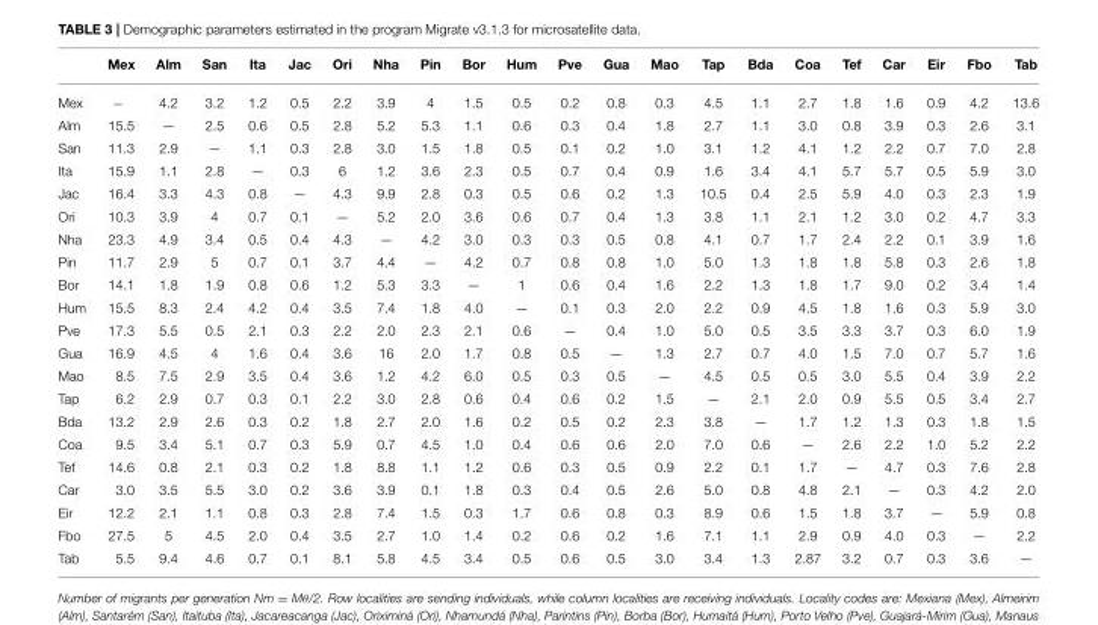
<table><thead><tr><td></td><td>Mex</td><td>Alm</td><td>San</td><td>Ita</td><td>Jac</td><td>Ori</td><td>Nha</td><td>Pin</td><td>Bor</td><td>Hum</td><td>Pve</td><td>Gua</td><td>Mao</td><td>Tap</td><td>Bda</td><td>Coa</td><td>Tef</td><td>Car</td><td>Eir</td><td>Fbo</td><td>Tab</td></tr></thead><tbody><tr><td>Mex</td><td>−</td><td>4.2</td><td>3.2</td><td>1.2</td><td>0.5</td><td>2.2</td><td>3.9</td><td>4</td><td>1.5</td><td>0.5</td><td>0.2</td><td>0.8</td><td>0.3</td><td>4.5</td><td>1.1</td><td>2.7</td><td>1.8</td><td>1.6</td><td>0.9</td><td>4.2</td><td>13.6</td></tr><tr><td>Alm</td><td>15.5</td><td>—</td><td>2.5</td><td>0.6</td><td>0.5</td><td>2.8</td><td>5.2</td><td>5.3</td><td>1.1</td><td>0.6</td><td>0.3</td><td>0.4</td><td>1.8</td><td>2.7</td><td>1.1</td><td>3.0</td><td>0.8</td><td>3.9</td><td>0.3</td><td>2.6</td><td>3.1</td></tr><tr><td>San</td><td>11.3</td><td>2.9</td><td>—</td><td>1.1</td><td>0.3</td><td>2.8</td><td>3.0</td><td>1.5</td><td>1.8</td><td>0.5</td><td>0.1</td><td>0.2</td><td>1.0</td><td>3.1</td><td>1.2</td><td>4.1</td><td>1.2</td><td>2.2</td><td>0.7</td><td>7.0</td><td>2.8</td></tr><tr><td>Ita</td><td>15.9</td><td>1.1</td><td>2.8</td><td>—</td><td>0.3</td><td>6</td><td>1.2</td><td>3.6</td><td>2.3</td><td>0.5</td><td>0.7</td><td>0.4</td><td>0.9</td><td>1.6</td><td>3.4</td><td>4.1</td><td>5.7</td><td>5.7</td><td>0.5</td><td>5.9</td><td>3.0</td></tr><tr><td>Jac</td><td>16.4</td><td>3.3</td><td>4.3</td><td>0.8</td><td>—</td><td>4.3</td><td>9.9</td><td>2.8</td><td>0.3</td><td>0.5</td><td>0.6</td><td>0.2</td><td>1.3</td><td>10.5</td><td>0.4</td><td>2.5</td><td>5.9</td><td>4.0</td><td>0.3</td><td>2.3</td><td>1.9</td></tr><tr><td>Ori</td><td>10.3</td><td>3.9</td><td>4</td><td>0.7</td><td>0.1</td><td>—</td><td>5.2</td><td>2.0</td><td>3.6</td><td>0.6</td><td>0.7</td><td>0.4</td><td>1.3</td><td>3.8</td><td>1.1</td><td>2.1</td><td>1.2</td><td>3.0</td><td>0.2</td><td>4.7</td><td>3.3</td></tr><tr><td>Nha</td><td>23.3</td><td>4.9</td><td>3.4</td><td>0.5</td><td>0.4</td><td>4.3</td><td>—</td><td>4.2</td><td>3.0</td><td>0.3</td><td>0.3</td><td>0.5</td><td>0.8</td><td>4.1</td><td>0.7</td><td>1.7</td><td>2.4</td><td>2.2</td><td>0.1</td><td>3.9</td><td>1.6</td></tr><tr><td>Pin</td><td>11.7</td><td>2.9</td><td>5</td><td>0.7</td><td>0.1</td><td>3.7</td><td>4.4</td><td>—</td><td>4.2</td><td>0.7</td><td>0.8</td><td>0.8</td><td>1.0</td><td>5.0</td><td>1.3</td><td>1.8</td><td>1.8</td><td>5.8</td><td>0.3</td><td>2.6</td><td>1.8</td></tr><tr><td>Bor</td><td>14.1</td><td>1.8</td><td>1.9</td><td>0.8</td><td>0.6</td><td>1.2</td><td>5.3</td><td>3.3</td><td>—</td><td>1</td><td>0.6</td><td>0.4</td><td>1.6</td><td>2.2</td><td>1.3</td><td>1.8</td><td>1.7</td><td>9.0</td><td>0.2</td><td>3.4</td><td>1.4</td></tr><tr><td>Hum</td><td>15.5</td><td>8.3</td><td>2.4</td><td>4.2</td><td>0.4</td><td>3.5</td><td>7.4</td><td>1.8</td><td>4.0</td><td>—</td><td>0.1</td><td>0.3</td><td>2.0</td><td>2.2</td><td>0.9</td><td>4.5</td><td>1.8</td><td>1.6</td><td>0.3</td><td>5.9</td><td>3.0</td></tr><tr><td>Pve</td><td>17.3</td><td>5.5</td><td>0.5</td><td>2.1</td><td>0.3</td><td>2.2</td><td>2.0</td><td>2.3</td><td>2.1</td><td>0.6</td><td>—</td><td>0.4</td><td>1.0</td><td>5.0</td><td>0.5</td><td>3.5</td><td>3.3</td><td>3.7</td><td>0.3</td><td>6.0</td><td>1.9</td></tr><tr><td>Gua</td><td>16.9</td><td>4.5</td><td>4</td><td>1.6</td><td>0.4</td><td>3.6</td><td>16</td><td>2.0</td><td>1.7</td><td>0.8</td><td>0.5</td><td>—</td><td>1.3</td><td>2.7</td><td>0.7</td><td>4.0</td><td>1.5</td><td>7.0</td><td>0.7</td><td>5.7</td><td>1.6</td></tr><tr><td>Mao</td><td>8.5</td><td>7.5</td><td>2.9</td><td>3.5</td><td>0.4</td><td>3.6</td><td>1.2</td><td>4.2</td><td>6.0</td><td>0.5</td><td>0.3</td><td>0.5</td><td>—</td><td>4.5</td><td>0.5</td><td>0.5</td><td>3.0</td><td>5.5</td><td>0.4</td><td>3.9</td><td>2.2</td></tr><tr><td>Tap</td><td>6.2</td><td>2.9</td><td>0.7</td><td>0.3</td><td>0.1</td><td>2.2</td><td>3.0</td><td>2.8</td><td>0.6</td><td>0.4</td><td>0.6</td><td>0.2</td><td>1.5</td><td>—</td><td>2.1</td><td>2.0</td><td>0.9</td><td>5.5</td><td>0.5</td><td>3.4</td><td>2.7</td></tr><tr><td>Bda</td><td>13.2</td><td>2.9</td><td>2.6</td><td>0.3</td><td>0.2</td><td>1.8</td><td>2.7</td><td>2.0</td><td>1.6</td><td>0.2</td><td>0.5</td><td>0.2</td><td>2.3</td><td>3.8</td><td>—</td><td>1.7</td><td>1.2</td><td>1.3</td><td>0.3</td><td>1.8</td><td>1.5</td></tr><tr><td>Coa</td><td>9.5</td><td>3.4</td><td>5.1</td><td>0.7</td><td>0.3</td><td>5.9</td><td>0.7</td><td>4.5</td><td>1.0</td><td>0.4</td><td>0.6</td><td>0.6</td><td>2.0</td><td>7.0</td><td>0.6</td><td>—</td><td>2.6</td><td>2.2</td><td>1.0</td><td>5.2</td><td>2.2</td></tr><tr><td>Tef</td><td>14.6</td><td>0.8</td><td>2.1</td><td>0.3</td><td>0.2</td><td>1.8</td><td>8.8</td><td>1.1</td><td>1.2</td><td>0.6</td><td>0.3</td><td>0.5</td><td>0.9</td><td>2.2</td><td>0.1</td><td>1.7</td><td>—</td><td>4.7</td><td>0.3</td><td>7.6</td><td>2.8</td></tr><tr><td>Car</td><td>3.0</td><td>3.5</td><td>5.5</td><td>3.0</td><td>0.2</td><td>3.6</td><td>3.9</td><td>0.1</td><td>1.8</td><td>0.3</td><td>0.4</td><td>0.5</td><td>2.6</td><td>5.0</td><td>0.8</td><td>4.8</td><td>2.1</td><td>—</td><td>0.3</td><td>4.2</td><td>2.0</td></tr><tr><td>Eir</td><td>12.2</td><td>2.1</td><td>1.1</td><td>0.8</td><td>0.3</td><td>2.8</td><td>7.4</td><td>1.5</td><td>0.3</td><td>1.7</td><td>0.6</td><td>0.8</td><td>0.3</td><td>8.9</td><td>0.6</td><td>1.5</td><td>1.8</td><td>3.7</td><td>—</td><td>5.9</td><td>0.8</td></tr><tr><td>Fbo</td><td>27.5</td><td>5</td><td>4.5</td><td>2.0</td><td>0.4</td><td>3.5</td><td>2.7</td><td>1.0</td><td>1.4</td><td>0.2</td><td>0.6</td><td>0.2</td><td>1.6</td><td>7.1</td><td>1.1</td><td>2.9</td><td>0.9</td><td>4.0</td><td>0.3</td><td>—</td><td>2.2</td></tr><tr><td>Tab</td><td>5.5</td><td>9.4</td><td>4.6</td><td>0.7</td><td>0.1</td><td>8.1</td><td>5.8</td><td>4.5</td><td>3.4</td><td>0.5</td><td>0.6</td><td>0.5</td><td>3.0</td><td>3.4</td><td>1.3</td><td>2.87</td><td>3.2</td><td>0.7</td><td>0.3</td><td>3.6</td><td>—</td></tr></tbody></table>